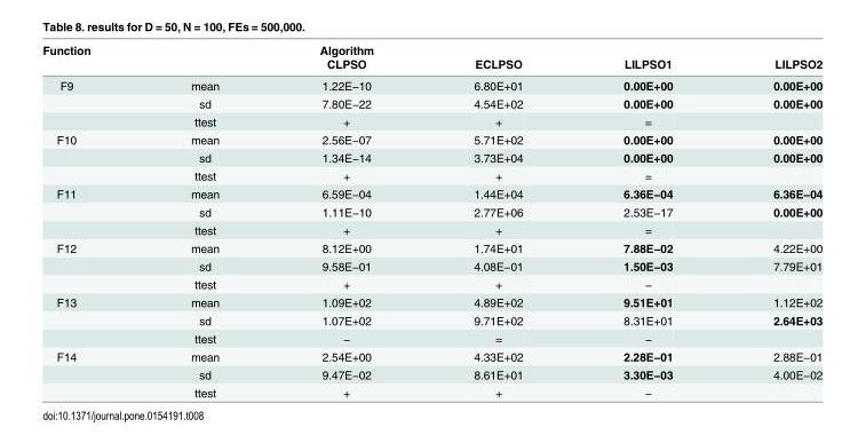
<table><thead><tr><td rowspan="2">Function</td><td rowspan="2"></td><td rowspan="2">Algorithm CLPSO</td><td rowspan="2">ECLPSO</td><td rowspan="2">LILPSO1</td><td rowspan="2">LILPSO2</td></tr><tr></tr></thead><tbody><tr><td rowspan="3">F9</td><td>mean</td><td>1.22E−10</td><td>6.80E+01</td><td>0.00E+00</td><td>0.00E+00</td></tr><tr><td>sd</td><td>7.80E−22</td><td>4.54E+02</td><td>0.00E+00</td><td>0.00E+00</td></tr><tr><td>ttest</td><td>+</td><td>+</td><td>=</td><td></td></tr><tr><td rowspan="3">F10</td><td>mean</td><td>2.56E−07</td><td>5.71E+02</td><td>0.00E+00</td><td>0.00E+00</td></tr><tr><td>sd</td><td>1.34E−14</td><td>3.73E+04</td><td>0.00E+00</td><td>0.00E+00</td></tr><tr><td>ttest</td><td>+</td><td>+</td><td>=</td><td></td></tr><tr><td rowspan="3">F11</td><td>mean</td><td>6.59E−04</td><td>1.44E+04</td><td>6.36E−04</td><td>6.36E−04</td></tr><tr><td>sd</td><td>1.11E−10</td><td>2.77E+06</td><td>2.53E−17</td><td>0.00E+00</td></tr><tr><td>ttest</td><td>+</td><td>+</td><td>=</td><td></td></tr><tr><td rowspan="3">F12</td><td>mean</td><td>8.12E+00</td><td>1.74E+01</td><td>7.88E−02</td><td>4.22E+00</td></tr><tr><td>sd</td><td>9.58E−01</td><td>4.08E−01</td><td>1.50E−03</td><td>7.79E+01</td></tr><tr><td>ttest</td><td>+</td><td>+</td><td>−</td><td></td></tr><tr><td rowspan="3">F13</td><td>mean</td><td>1.09E+02</td><td>4.89E+02</td><td>9.51E+01</td><td>1.12E+02</td></tr><tr><td>sd</td><td>1.07E+02</td><td>9.71E+02</td><td>8.31E+01</td><td>2.64E+03</td></tr><tr><td>ttest</td><td>−</td><td>=</td><td>−</td><td></td></tr><tr><td rowspan="3">F14</td><td>mean</td><td>2.54E+00</td><td>4.33E+02</td><td>2.28E−01</td><td>2.88E−01</td></tr><tr><td>sd</td><td>9.47E−02</td><td>8.61E+01</td><td>3.30E−03</td><td>4.00E−02</td></tr><tr><td>ttest</td><td>+</td><td>+</td><td>−</td><td></td></tr></tbody></table>